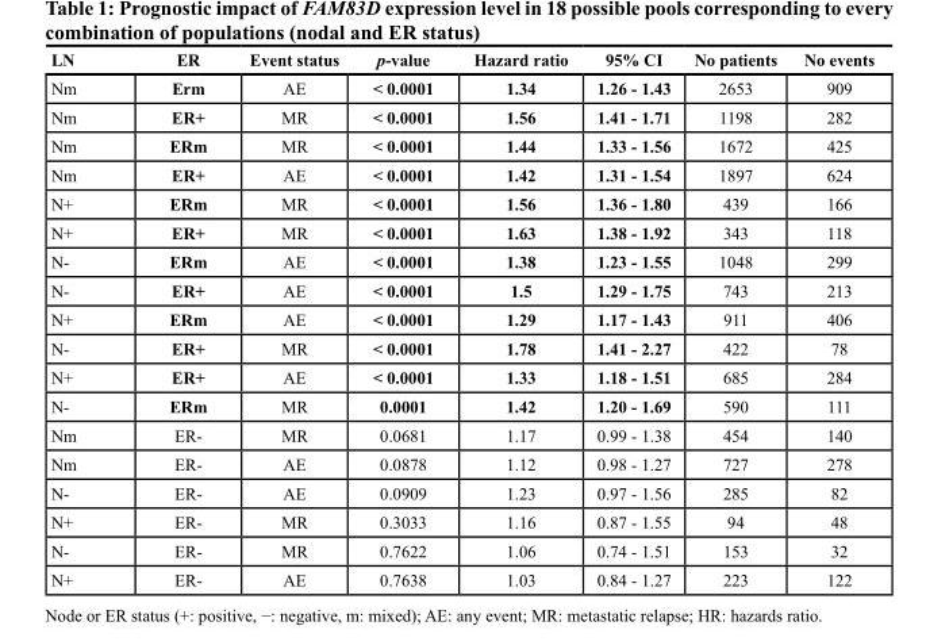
<table><thead><tr><td>LN</td><td>ER</td><td>Event status</td><td>p-value</td><td>Hazard ratio</td><td>95% CI</td><td>No patients</td><td>No events</td></tr></thead><tbody><tr><td>Nm</td><td>Erm</td><td>AE</td><td>&lt; 0.0001</td><td>1.34</td><td>1.26 - 1.43</td><td>2653</td><td>909</td></tr><tr><td>Nm</td><td>ER+</td><td>MR</td><td>&lt; 0.0001</td><td>1.56</td><td>1.41 - 1.71</td><td>1198</td><td>282</td></tr><tr><td>Nm</td><td>ERm</td><td>MR</td><td>&lt; 0.0001</td><td>1.44</td><td>1.33 - 1.56</td><td>1672</td><td>425</td></tr><tr><td>Nm</td><td>ER+</td><td>AE</td><td>&lt; 0.0001</td><td>1.42</td><td>1.31 - 1.54</td><td>1897</td><td>624</td></tr><tr><td>N+</td><td>ERm</td><td>MR</td><td>&lt; 0.0001</td><td>1.56</td><td>1.36 - 1.80</td><td>439</td><td>166</td></tr><tr><td>N+</td><td>ER+</td><td>MR</td><td>&lt; 0.0001</td><td>1.63</td><td>1.38 - 1.92</td><td>343</td><td>118</td></tr><tr><td>N-</td><td>ERm</td><td>AE</td><td>&lt; 0.0001</td><td>1.38</td><td>1.23 - 1.55</td><td>1048</td><td>299</td></tr><tr><td>N-</td><td>ER+</td><td>AE</td><td>&lt; 0.0001</td><td>1.5</td><td>1.29 - 1.75</td><td>743</td><td>213</td></tr><tr><td>N+</td><td>ERm</td><td>AE</td><td>&lt; 0.0001</td><td>1.29</td><td>1.17 - 1.43</td><td>911</td><td>406</td></tr><tr><td>N-</td><td>ER+</td><td>MR</td><td>&lt; 0.0001</td><td>1.78</td><td>1.41 - 2.27</td><td>422</td><td>78</td></tr><tr><td>N+</td><td>ER+</td><td>AE</td><td>&lt; 0.0001</td><td>1.33</td><td>1.18 - 1.51</td><td>685</td><td>284</td></tr><tr><td>N-</td><td>ERm</td><td>MR</td><td>0.0001</td><td>1.42</td><td>1.20 - 1.69</td><td>590</td><td>111</td></tr><tr><td>Nm</td><td>ER-</td><td>MR</td><td>0.0681</td><td>1.17</td><td>0.99 - 1.38</td><td>454</td><td>140</td></tr><tr><td>Nm</td><td>ER-</td><td>AE</td><td>0.0878</td><td>1.12</td><td>0.98 - 1.27</td><td>727</td><td>278</td></tr><tr><td>N-</td><td>ER-</td><td>AE</td><td>0.0909</td><td>1.23</td><td>0.97 - 1.56</td><td>285</td><td>82</td></tr><tr><td>N+</td><td>ER-</td><td>MR</td><td>0.3033</td><td>1.16</td><td>0.87 - 1.55</td><td>94</td><td>48</td></tr><tr><td>N-</td><td>ER-</td><td>MR</td><td>0.7622</td><td>1.06</td><td>0.74 - 1.51</td><td>153</td><td>32</td></tr><tr><td>N+</td><td>ER-</td><td>AE</td><td>0.7638</td><td>1.03</td><td>0.84 - 1.27</td><td>223</td><td>122</td></tr></tbody></table>